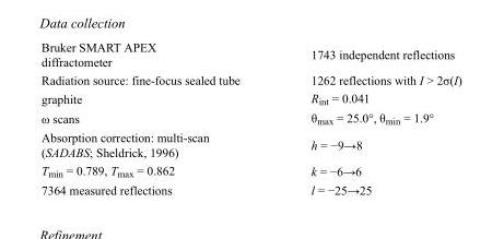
<table><tbody><tr><td>Bruker SMART APEX diffractometer</td><td>1743 independent reflections</td></tr><tr><td>Radiation source: fine-focus sealed tube</td><td>1262 reflections with I &gt; 2σ(I)</td></tr><tr><td>graphite</td><td>R<sub>int</sub> = 0.041</td></tr><tr><td>ω scans</td><td>θ<sub>max</sub> = 25.0°, θ<sub>min</sub> = 1.9°</td></tr><tr><td>Absorption correction: multi-scan (SADABS; Sheldrick, 1996)</td><td>h = −9→8</td></tr><tr><td>T<sub>min</sub> = 0.789, T<sub>max</sub> = 0.862</td><td>k = −6→6</td></tr><tr><td>7364 measured reflections</td><td>l = −25→25</td></tr></tbody></table>